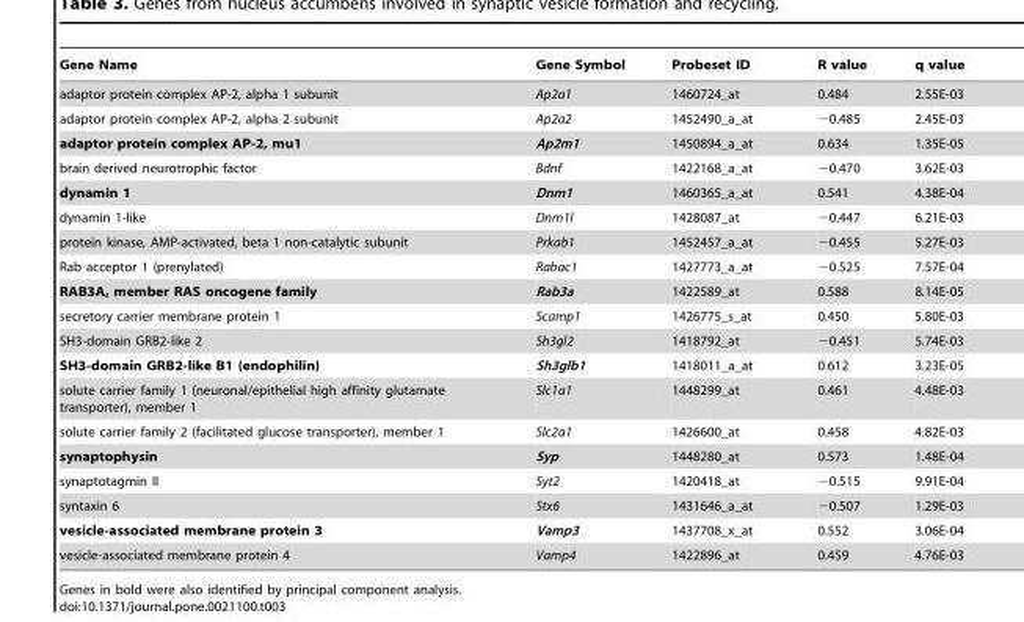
<table><thead><tr><td>Gene Name</td><td>Gene Symbol</td><td>Probeset ID</td><td>R value</td><td>q value</td></tr></thead><tbody><tr><td>adaptor protein complex AP-2, alpha 1 subunit</td><td>Ap2a1</td><td>1460724_at</td><td>0.484</td><td>2.55E-03</td></tr><tr><td>adaptor protein complex AP-2, alpha 2 subunit</td><td>Ap2a2</td><td>1452490_a_at</td><td>−0.485</td><td>2.45E-03</td></tr><tr><td>adaptor protein complex AP-2, mu1</td><td>Ap2m1</td><td>1450894_a_at</td><td>0.634</td><td>1.35E-05</td></tr><tr><td>brain derived neurotrophic factor</td><td>Bdnf</td><td>1422168_a_at</td><td>−0.470</td><td>3.62E-03</td></tr><tr><td>dynamin 1</td><td>Dnm1</td><td>1460365_a_at</td><td>0.541</td><td>4.38E-04</td></tr><tr><td>dynamin 1-like</td><td>Dnm1l</td><td>1428087_at</td><td>−0.447</td><td>6.21E-03</td></tr><tr><td>protein kinase, AMP-activated, beta 1 non-catalytic subunit</td><td>Prkab1</td><td>1452457_a_at</td><td>−0.455</td><td>5.27E-03</td></tr><tr><td>Rab acceptor 1 (prenylated)</td><td>Rabac1</td><td>1427773_a_at</td><td>−0.525</td><td>7.57E-04</td></tr><tr><td>RAB3A, member RAS oncogene family</td><td>Rab3a</td><td>1422589_at</td><td>0.588</td><td>8.14E-05</td></tr><tr><td>secretory carrier membrane protein 1</td><td>Scamp1</td><td>1426775_s_at</td><td>0.450</td><td>5.80E-03</td></tr><tr><td>SH3-domain GRB2-like 2</td><td>Sh3gl2</td><td>1418792_at</td><td>−0.451</td><td>5.74E-03</td></tr><tr><td>SH3-domain GRB2-like B1 (endophilin)</td><td>Sh3glb1</td><td>1418011_a_at</td><td>0.612</td><td>3.23E-05</td></tr><tr><td>solute carrier family 1 (neuronal/epithelial high affinity glutamate transporter), member 1</td><td>Slc1a1</td><td>1448299_at</td><td>0.461</td><td>4.48E-03</td></tr><tr><td>solute carrier family 2 (facilitated glucose transporter), member 1</td><td>Slc2a1</td><td>1426600_at</td><td>0.458</td><td>4.82E-03</td></tr><tr><td>synaptophysin</td><td>Syp</td><td>1448280_at</td><td>0.573</td><td>1.48E-04</td></tr><tr><td>synaptotagmin II</td><td>Syt2</td><td>1420418_at</td><td>−0.515</td><td>9.91E-04</td></tr><tr><td>syntaxin 6</td><td>Stx6</td><td>1431646_a_at</td><td>−0.507</td><td>1.29E-03</td></tr><tr><td>vesicle-associated membrane protein 3</td><td>Vamp3</td><td>1437708_x_at</td><td>0.552</td><td>3.06E-04</td></tr><tr><td>vesicle-associated membrane protein 4</td><td>Vamp4</td><td>1422896_at</td><td>0.459</td><td>4.76E-03</td></tr></tbody></table>